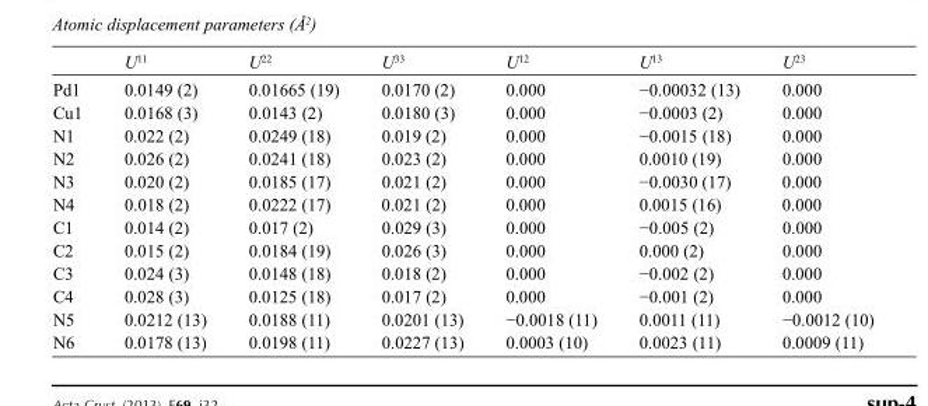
<table><thead><tr><td></td><td>U<sup>11</sup></td><td>U<sup>22</sup></td><td>U<sup>33</sup></td><td>U<sup>12</sup></td><td>U<sup>13</sup></td><td>U<sup>23</sup></td></tr></thead><tbody><tr><td>Pd1</td><td>0.0149 (2)</td><td>0.01665 (19)</td><td>0.0170 (2)</td><td>0.000</td><td>−0.00032 (13)</td><td>0.000</td></tr><tr><td>Cu1</td><td>0.0168 (3)</td><td>0.0143 (2)</td><td>0.0180 (3)</td><td>0.000</td><td>−0.0003 (2)</td><td>0.000</td></tr><tr><td>N1</td><td>0.022 (2)</td><td>0.0249 (18)</td><td>0.019 (2)</td><td>0.000</td><td>−0.0015 (18)</td><td>0.000</td></tr><tr><td>N2</td><td>0.026 (2)</td><td>0.0241 (18)</td><td>0.023 (2)</td><td>0.000</td><td>0.0010 (19)</td><td>0.000</td></tr><tr><td>N3</td><td>0.020 (2)</td><td>0.0185 (17)</td><td>0.021 (2)</td><td>0.000</td><td>−0.0030 (17)</td><td>0.000</td></tr><tr><td>N4</td><td>0.018 (2)</td><td>0.0222 (17)</td><td>0.021 (2)</td><td>0.000</td><td>0.0015 (16)</td><td>0.000</td></tr><tr><td>C1</td><td>0.014 (2)</td><td>0.017 (2)</td><td>0.029 (3)</td><td>0.000</td><td>−0.005 (2)</td><td>0.000</td></tr><tr><td>C2</td><td>0.015 (2)</td><td>0.0184 (19)</td><td>0.026 (3)</td><td>0.000</td><td>0.000 (2)</td><td>0.000</td></tr><tr><td>C3</td><td>0.024 (3)</td><td>0.0148 (18)</td><td>0.018 (2)</td><td>0.000</td><td>−0.002 (2)</td><td>0.000</td></tr><tr><td>C4</td><td>0.028 (3)</td><td>0.0125 (18)</td><td>0.017 (2)</td><td>0.000</td><td>−0.001 (2)</td><td>0.000</td></tr><tr><td>N5</td><td>0.0212 (13)</td><td>0.0188 (11)</td><td>0.0201 (13)</td><td>−0.0018 (11)</td><td>0.0011 (11)</td><td>−0.0012 (10)</td></tr><tr><td>N6</td><td>0.0178 (13)</td><td>0.0198 (11)</td><td>0.0227 (13)</td><td>0.0003 (10)</td><td>0.0023 (11)</td><td>0.0009 (11)</td></tr></tbody></table>